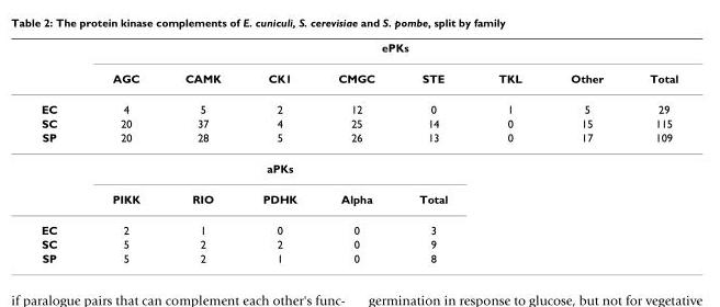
<table><thead><tr><td rowspan="2"></td><td colspan="8">ePKs</td></tr><tr><td>AGC</td><td>CAMK</td><td>CK1</td><td>CMGC</td><td>STE</td><td>TKL</td><td>Other</td><td>Total</td></tr></thead><tbody><tr><td>EC</td><td>4</td><td>5</td><td>2</td><td>12</td><td>0</td><td>1</td><td>5</td><td>29</td></tr><tr><td>SC</td><td>20</td><td>37</td><td>4</td><td>25</td><td>14</td><td>0</td><td>15</td><td>115</td></tr><tr><td rowspan="3">SP</td><td>20</td><td>28</td><td>5</td><td>26</td><td>13</td><td>0</td><td>17</td><td>109</td></tr><tr><td colspan="5">aPKs</td><td></td><td></td><td></td></tr><tr><td>PIKK</td><td>RIO</td><td>PDHK</td><td>Alpha</td><td>Total</td><td></td><td></td><td></td></tr><tr><td>EC</td><td>2</td><td>1</td><td>0</td><td>0</td><td>3</td><td></td><td></td><td></td></tr><tr><td>SC</td><td>5</td><td>2</td><td>2</td><td>0</td><td>9</td><td></td><td></td><td></td></tr><tr><td>SP</td><td>5</td><td>2</td><td>1</td><td>0</td><td>8</td><td></td><td></td><td></td></tr></tbody></table>